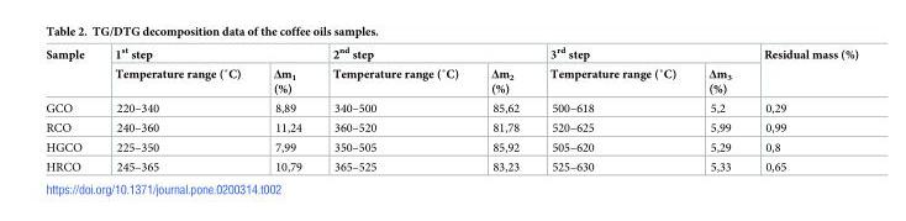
<table><thead><tr><td rowspan="2">Sample</td><td colspan="2">1<sup>st</sup> step</td><td colspan="2">2<sup>nd</sup> step</td><td colspan="2">3<sup>rd</sup> step</td><td rowspan="2">Residual mass (%)</td></tr><tr><td>Temperature range (˚C)</td><td>Δm<sub>1</sub> (%)</td><td>Temperature range (˚C)</td><td>Δm<sub>2</sub> (%)</td><td>Temperature range (˚C)</td><td>Δm<sub>3</sub> (%)</td></tr></thead><tbody><tr><td>GCO</td><td>220–340</td><td>8,89</td><td>340–500</td><td>85,62</td><td>500–618</td><td>5,2</td><td>0,29</td></tr><tr><td>RCO</td><td>240–360</td><td>11,24</td><td>360–520</td><td>81,78</td><td>520–625</td><td>5,99</td><td>0,99</td></tr><tr><td>HGCO</td><td>225–350</td><td>7,99</td><td>350–505</td><td>85,92</td><td>505–620</td><td>5,29</td><td>0,8</td></tr><tr><td>HRCO</td><td>245–365</td><td>10,79</td><td>365–525</td><td>83,23</td><td>525–630</td><td>5,33</td><td>0,65</td></tr></tbody></table>